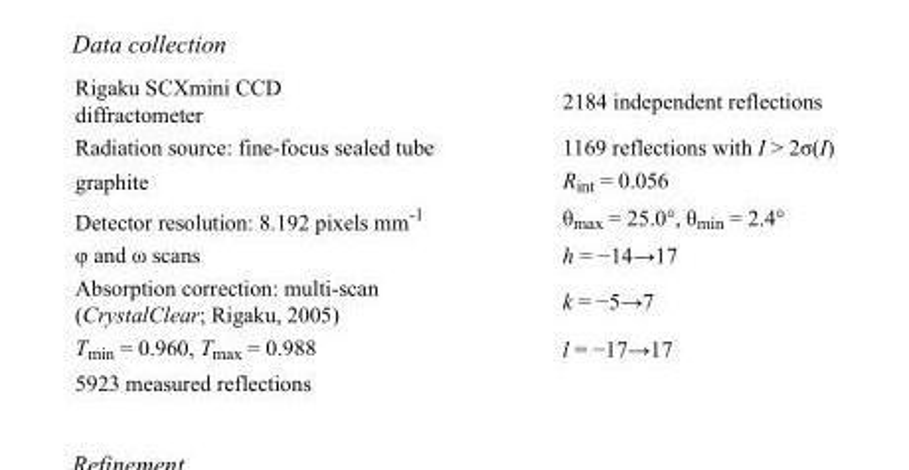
<table><tbody><tr><td>Rigaku SCXmini CCD diffractometer</td><td>2184 independent reflections</td></tr><tr><td>Radiation source: fine-focus sealed tube</td><td>1169 reflections with I &gt; 2σ(I)</td></tr><tr><td>graphite</td><td>R<sub>int</sub> = 0.056</td></tr><tr><td>Detector resolution: 8.192 pixels mm<sup>-1</sup></td><td>θ<sub>max</sub> = 25.0°, θ<sub>min</sub> = 2.4°</td></tr><tr><td>φ and ω scans</td><td>h = −14→17</td></tr><tr><td>Absorption correction: multi-scan (CrystalClear; Rigaku, 2005)</td><td>k = −5→7</td></tr><tr><td>T<sub>min</sub> = 0.960, T<sub>max</sub> = 0.988</td><td>l = −17→17</td></tr><tr><td>5923 measured reflections</td><td></td></tr></tbody></table>